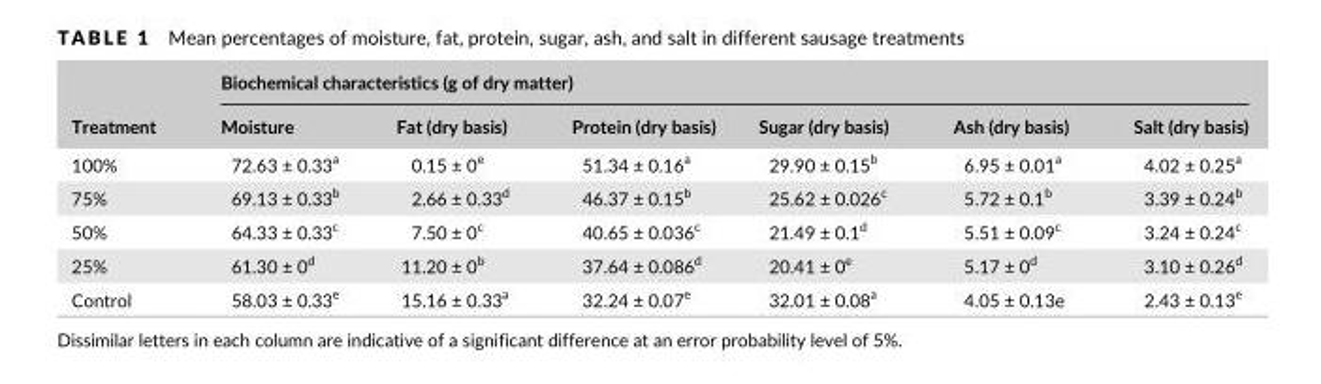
<table><thead><tr><td rowspan="2">Treatment</td><td colspan="6">Biochemical characteristics (g of dry matter)</td></tr><tr><td>Moisture</td><td>Fat (dry basis)</td><td>Protein (dry basis)</td><td>Sugar (dry basis)</td><td>Ash (dry basis)</td><td>Salt (dry basis)</td></tr></thead><tbody><tr><td>100%</td><td>72.63 ± 0.33<sup>a</sup></td><td>0.15 ± 0<sup>e</sup></td><td>51.34 ± 0.16<sup>a</sup></td><td>29.90 ± 0.15<sup>b</sup></td><td>6.95 ± 0.01<sup>a</sup></td><td>4.02 ± 0.25<sup>a</sup></td></tr><tr><td>75%</td><td>69.13 ± 0.33<sup>b</sup></td><td>2.66 ± 0.33<sup>d</sup></td><td>46.37 ± 0.15<sup>b</sup></td><td>25.62 ± 0.026<sup>c</sup></td><td>5.72 ± 0.1<sup>b</sup></td><td>3.39 ± 0.24<sup>b</sup></td></tr><tr><td>50%</td><td>64.33 ± 0.33<sup>c</sup></td><td>7.50 ± 0<sup>c</sup></td><td>40.65 ± 0.036<sup>c</sup></td><td>21.49 ± 0.1<sup>d</sup></td><td>5.51 ± 0.09<sup>c</sup></td><td>3.24 ± 0.24<sup>c</sup></td></tr><tr><td>25%</td><td>61.30 ± 0<sup>d</sup></td><td>11.20 ± 0<sup>b</sup></td><td>37.64 ± 0.086<sup>d</sup></td><td>20.41 ± 0<sup>e</sup></td><td>5.17 ± 0<sup>d</sup></td><td>3.10 ± 0.26<sup>d</sup></td></tr><tr><td>Control</td><td>58.03 ± 0.33<sup>e</sup></td><td>15.16 ± 0.33<sup>a</sup></td><td>32.24 ± 0.07<sup>e</sup></td><td>32.01 ± 0.08<sup>a</sup></td><td>4.05 ± 0.13e</td><td>2.43 ± 0.13<sup>e</sup></td></tr></tbody></table>